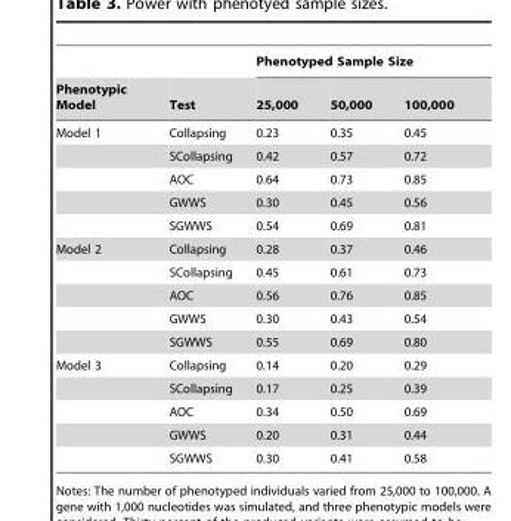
<table><thead><tr><td rowspan="2">Phenotypic Model</td><td rowspan="2">Test</td><td colspan="3">Phenotyped Sample Size</td></tr><tr><td>25,000</td><td>50,000</td><td>100,000</td></tr></thead><tbody><tr><td rowspan="5">Model 1</td><td>Collapsing</td><td>0.23</td><td>0.35</td><td>0.45</td></tr><tr><td>SCollapsing</td><td>0.42</td><td>0.57</td><td>0.72</td></tr><tr><td>AOC</td><td>0.64</td><td>0.73</td><td>0.85</td></tr><tr><td>GWWS</td><td>0.30</td><td>0.45</td><td>0.56</td></tr><tr><td>SGWWS</td><td>0.54</td><td>0.69</td><td>0.81</td></tr><tr><td rowspan="5">Model 2</td><td>Collapsing</td><td>0.28</td><td>0.37</td><td>0.46</td></tr><tr><td>SCollapsing</td><td>0.45</td><td>0.61</td><td>0.73</td></tr><tr><td>AOC</td><td>0.56</td><td>0.76</td><td>0.85</td></tr><tr><td>GWWS</td><td>0.30</td><td>0.43</td><td>0.54</td></tr><tr><td>SGWWS</td><td>0.55</td><td>0.69</td><td>0.80</td></tr><tr><td rowspan="5">Model 3</td><td>Collapsing</td><td>0.14</td><td>0.20</td><td>0.29</td></tr><tr><td>SCollapsing</td><td>0.17</td><td>0.25</td><td>0.39</td></tr><tr><td>AOC</td><td>0.34</td><td>0.50</td><td>0.69</td></tr><tr><td>GWWS</td><td>0.20</td><td>0.31</td><td>0.44</td></tr><tr><td>SGWWS</td><td>0.30</td><td>0.41</td><td>0.58</td></tr></tbody></table>